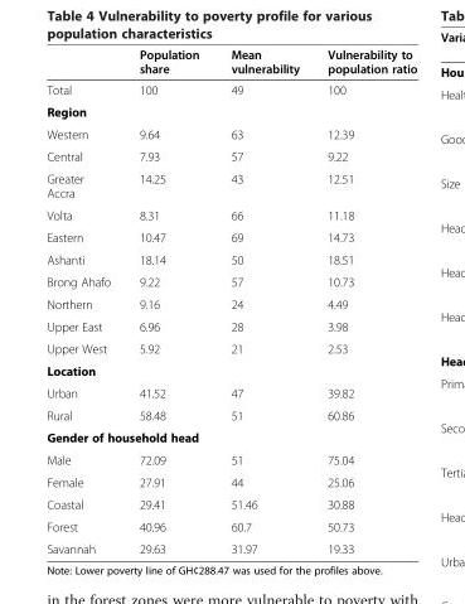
<table><thead><tr><td></td><td>Population share</td><td>Mean vulnerability</td><td>Vulnerability to population ratio</td></tr></thead><tbody><tr><td>Total</td><td>100</td><td>49</td><td>100</td></tr><tr><td colspan="4">Region</td></tr><tr><td>Western</td><td>9.64</td><td>63</td><td>12.39</td></tr><tr><td>Central</td><td>7.93</td><td>57</td><td>9.22</td></tr><tr><td>Greater Accra</td><td>14.25</td><td>43</td><td>12.51</td></tr><tr><td>Volta</td><td>8.31</td><td>66</td><td>11.18</td></tr><tr><td>Eastern</td><td>10.47</td><td>69</td><td>14.73</td></tr><tr><td>Ashanti</td><td>18.14</td><td>50</td><td>18.51</td></tr><tr><td>Brong Ahafo</td><td>9.22</td><td>57</td><td>10.73</td></tr><tr><td>Northern</td><td>9.16</td><td>24</td><td>4.49</td></tr><tr><td>Upper East</td><td>6.96</td><td>28</td><td>3.98</td></tr><tr><td>Upper West</td><td>5.92</td><td>21</td><td>2.53</td></tr><tr><td colspan="4">Location</td></tr><tr><td>Urban</td><td>41.52</td><td>47</td><td>39.82</td></tr><tr><td>Rural</td><td>58.48</td><td>51</td><td>60.86</td></tr><tr><td colspan="4">Gender of household head</td></tr><tr><td>Male</td><td>72.09</td><td>51</td><td>75.04</td></tr><tr><td>Female</td><td>27.91</td><td>44</td><td>25.06</td></tr><tr><td>Coastal</td><td>29.41</td><td>51.46</td><td>30.88</td></tr><tr><td>Forest</td><td>40.96</td><td>60.7</td><td>50.73</td></tr><tr><td>Savannah</td><td>29.63</td><td>31.97</td><td>19.33</td></tr></tbody></table>